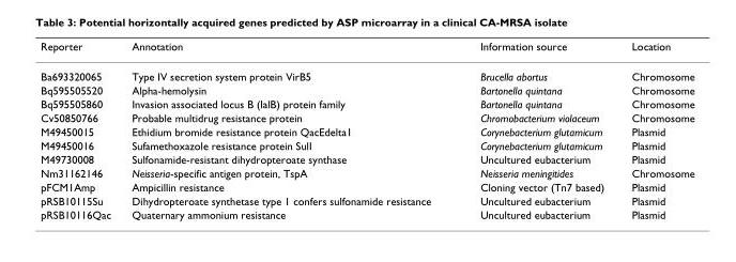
<table><thead><tr><td>Reporter</td><td>Annotation</td><td>Information source</td><td>Location</td></tr></thead><tbody><tr><td>Ba693320065</td><td>Type IV secretion system protein VirB5</td><td>Brucella abortus</td><td>Chromosome</td></tr><tr><td>Bq595505520</td><td>Alpha-hemolysin</td><td>Bartonella quintana</td><td>Chromosome</td></tr><tr><td>Bq595505860</td><td>Invasion associated locus B (IalB) protein family</td><td>Bartonella quintana</td><td>Chromosome</td></tr><tr><td>Cv50850766</td><td>Probable multidrug resistance protein</td><td>Chromobacterium violaceum</td><td>Chromosome</td></tr><tr><td>M49450015</td><td>Ethidium bromide resistance protein QacEdelta1</td><td>Corynebacterium glutamicum</td><td>Plasmid</td></tr><tr><td>M49450016</td><td>Sufamethoxazole resistance protein SulI</td><td>Corynebacterium glutamicum</td><td>Plasmid</td></tr><tr><td>M49730008</td><td>Sulfonamide-resistant dihydropteroate synthase</td><td>Uncultured eubacterium</td><td>Plasmid</td></tr><tr><td>Nm31162146</td><td>Neisseria-specific antigen protein, TspA</td><td>Neisseria meningitides</td><td>Chromosome</td></tr><tr><td>pFCM1Amp</td><td>Ampicillin resistance</td><td>Cloning vector (Tn7 based)</td><td>Plasmid</td></tr><tr><td>pRSB10115Su</td><td>Dihydropteroate synthetase type 1 confers sulfonamide resistance</td><td>Uncultured eubacterium</td><td>Plasmid</td></tr><tr><td>pRSB10116Qac</td><td>Quaternary ammonium resistance</td><td>Uncultured eubacterium</td><td>Plasmid</td></tr></tbody></table>